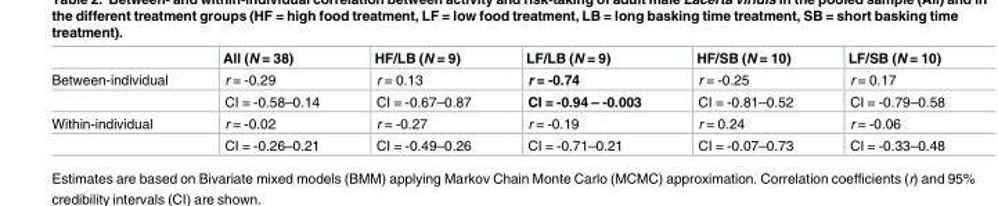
<table><thead><tr><td></td><td>All (N = 38)</td><td>HF/LB (N = 9)</td><td>LF/LB (N = 9)</td><td>HF/SB (N = 10)</td><td>LF/SB (N = 10)</td></tr></thead><tbody><tr><td rowspan="2">Between-individual</td><td>r = -0.29</td><td>r = 0.13</td><td>r = -0.74</td><td>r = -0.25</td><td>r = 0.17</td></tr><tr><td>CI = -0.58–0.14</td><td>CI = -0.67–0.87</td><td>CI = -0.94 – -0.003</td><td>CI = -0.81–0.52</td><td>CI = -0.79–0.58</td></tr><tr><td rowspan="2">Within-individual</td><td>r = -0.02</td><td>r = -0.27</td><td>r = -0.19</td><td>r = 0.24</td><td>r = -0.06</td></tr><tr><td>CI = -0.26–0.21</td><td>CI = -0.49–0.26</td><td>CI = -0.71–0.21</td><td>CI = -0.07–0.73</td><td>CI = -0.33–0.48</td></tr></tbody></table>